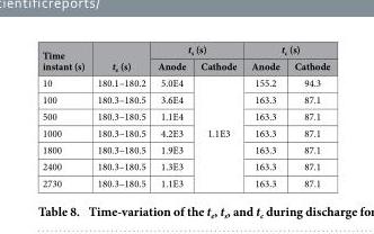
<table><thead><tr><td rowspan="2">Time instant (s)</td><td rowspan="2">t<sub>e</sub> (s)</td><td colspan="2">t<sub>s</sub> (s)</td><td colspan="2">t<sub>c</sub> (s)</td></tr><tr><td>Anode</td><td>Cathode</td><td>Anode</td><td>Cathode</td></tr></thead><tbody><tr><td>10</td><td>180.1–180.2</td><td>5.0E4</td><td rowspan="7">1.1E3</td><td>155.2</td><td>94.3</td></tr><tr><td>100</td><td>180.3–180.5</td><td>3.6E4</td><td>163.3</td><td>87.1</td></tr><tr><td>500</td><td>180.3–180.5</td><td>1.1E4</td><td>163.3</td><td>87.1</td></tr><tr><td>1000</td><td>180.3–180.5</td><td>4.2E3</td><td>163.3</td><td>87.1</td></tr><tr><td>1800</td><td>180.3–180.5</td><td>1.9E3</td><td>163.3</td><td>87.1</td></tr><tr><td>2400</td><td>180.3–180.5</td><td>1.3E3</td><td>163.3</td><td>87.1</td></tr><tr><td>2730</td><td>180.3–180.5</td><td>1.1E3</td><td>163.3</td><td>87.1</td></tr></tbody></table>